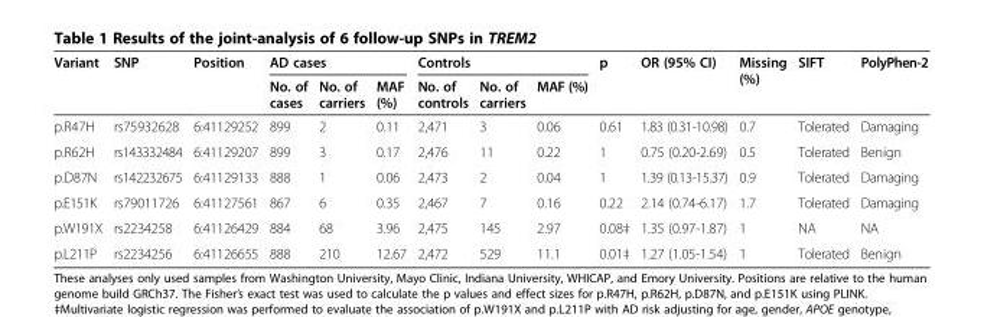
<table><thead><tr><td rowspan="2">Variant</td><td rowspan="2">SNP</td><td rowspan="2">Position</td><td colspan="3">AD cases</td><td colspan="3">Controls</td><td rowspan="2">p</td><td rowspan="2">OR (95% CI)</td><td rowspan="2">Missing (%)</td><td rowspan="2">SIFT</td><td rowspan="2">PolyPhen-2</td></tr><tr><td>No. of cases</td><td>No. of carriers</td><td>MAF (%)</td><td>No. of controls</td><td>No. of carriers</td><td>MAF (%)</td></tr></thead><tbody><tr><td>p.R47H</td><td>rs75932628</td><td>6:41129252</td><td>899</td><td>2</td><td>0.11</td><td>2,471</td><td>3</td><td>0.06</td><td>0.61</td><td>1.83 (0.31-10.98)</td><td>0.7</td><td>Tolerated</td><td>Damaging</td></tr><tr><td>p.R62H</td><td>rs143332484</td><td>6:41129207</td><td>899</td><td>3</td><td>0.17</td><td>2,476</td><td>11</td><td>0.22</td><td>1</td><td>0.75 (0.20-2.69)</td><td>0.5</td><td>Tolerated</td><td>Benign</td></tr><tr><td>p.D87N</td><td>rs142232675</td><td>6:41129133</td><td>888</td><td>1</td><td>0.06</td><td>2,473</td><td>2</td><td>0.04</td><td>1</td><td>1.39 (0.13-15.37)</td><td>0.9</td><td>Tolerated</td><td>Damaging</td></tr><tr><td>p.E151K</td><td>rs79011726</td><td>6:41127561</td><td>867</td><td>6</td><td>0.35</td><td>2,467</td><td>7</td><td>0.16</td><td>0.22</td><td>2.14 (0.74-6.17)</td><td>1.7</td><td>Tolerated</td><td>Damaging</td></tr><tr><td>p.W191X</td><td>rs2234258</td><td>6:41126429</td><td>884</td><td>68</td><td>3.96</td><td>2,475</td><td>145</td><td>2.97</td><td>0.08‡</td><td>1.35 (0.97-1.87)</td><td>1</td><td>NA</td><td>NA</td></tr><tr><td>p.L211P</td><td>rs2234256</td><td>6:41126655</td><td>888</td><td>210</td><td>12.67</td><td>2,472</td><td>529</td><td>11.1</td><td>0.01‡</td><td>1.27 (1.05-1.54)</td><td>1</td><td>Tolerated</td><td>Benign</td></tr></tbody></table>